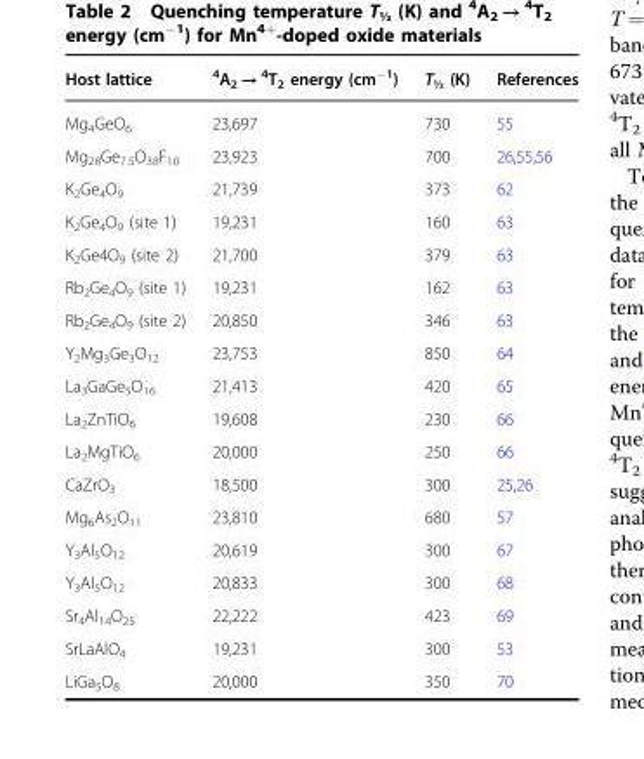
<table><thead><tr><td>Host lattice</td><td><sup>4</sup>A<sub>2</sub> → <sup>4</sup>T<sub>2</sub> energy (cm<sup>−1</sup>)</td><td>T<sub>½</sub> (K)</td><td>References</td></tr></thead><tbody><tr><td>Mg<sub>4</sub>GeO<sub>6</sub></td><td>23,697</td><td>730</td><td>55</td></tr><tr><td>Mg<sub>28</sub>Ge<sub>7.5</sub>O<sub>38</sub>F<sub>10</sub></td><td>23,923</td><td>700</td><td>26,55,56</td></tr><tr><td>K<sub>2</sub>Ge<sub>4</sub>O<sub>9</sub></td><td>21,739</td><td>373</td><td>62</td></tr><tr><td>K<sub>2</sub>Ge<sub>4</sub>O<sub>9</sub> (site 1)</td><td>19,231</td><td>160</td><td>63</td></tr><tr><td>K<sub>2</sub>Ge4O<sub>9</sub> (site 2)</td><td>21,700</td><td>379</td><td>63</td></tr><tr><td>Rb<sub>2</sub>Ge<sub>4</sub>O<sub>9</sub> (site 1)</td><td>19,231</td><td>162</td><td>63</td></tr><tr><td>Rb<sub>2</sub>Ge<sub>4</sub>O<sub>9</sub> (site 2)</td><td>20,850</td><td>346</td><td>63</td></tr><tr><td>Y<sub>2</sub>Mg<sub>3</sub>Ge<sub>3</sub>O<sub>12</sub></td><td>23,753</td><td>850</td><td>64</td></tr><tr><td>La<sub>3</sub>GaGe<sub>5</sub>O<sub>16</sub></td><td>21,413</td><td>420</td><td>65</td></tr><tr><td>La<sub>2</sub>ZnTiO<sub>6</sub></td><td>19,608</td><td>230</td><td>66</td></tr><tr><td>La<sub>2</sub>MgTiO<sub>6</sub></td><td>20,000</td><td>250</td><td>66</td></tr><tr><td>CaZrO<sub>3</sub></td><td>18,500</td><td>300</td><td>25,26</td></tr><tr><td>Mg<sub>6</sub>As<sub>2</sub>O<sub>11</sub></td><td>23,810</td><td>680</td><td>57</td></tr><tr><td>Y<sub>3</sub>Al<sub>5</sub>O<sub>12</sub></td><td>20,619</td><td>300</td><td>67</td></tr><tr><td>Y<sub>3</sub>Al<sub>5</sub>O<sub>12</sub></td><td>20,833</td><td>300</td><td>68</td></tr><tr><td>Sr<sub>4</sub>Al<sub>14</sub>O<sub>25</sub></td><td>22,222</td><td>423</td><td>69</td></tr><tr><td>SrLaAlO<sub>4</sub></td><td>19,231</td><td>300</td><td>53</td></tr><tr><td>LiGa<sub>5</sub>O<sub>8</sub></td><td>20,000</td><td>350</td><td>70</td></tr></tbody></table>